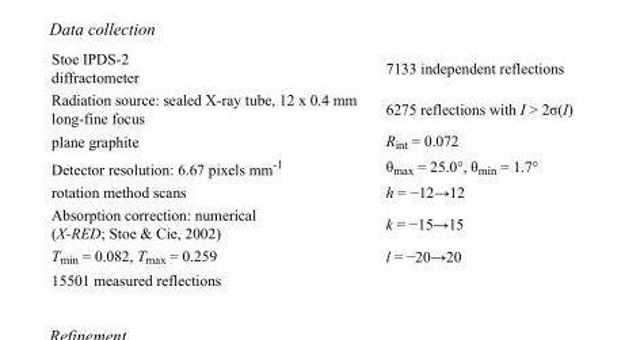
<table><tbody><tr><td>Stoe IPDS-2 diffractometer</td><td>7133 independent reflections</td></tr><tr><td>Radiation source: sealed X-ray tube, 12 x 0.4 mm long-fine focus</td><td>6275 reflections with I &gt; 2σ(I)</td></tr><tr><td>plane graphite</td><td>R<sub>int</sub> = 0.072</td></tr><tr><td>Detector resolution: 6.67 pixels mm<sup>-1</sup></td><td>θ<sub>max</sub> = 25.0°, θ<sub>min</sub> = 1.7°</td></tr><tr><td>rotation method scans</td><td>h = −12→12</td></tr><tr><td>Absorption correction: numerical (X-RED; Stoe &amp; Cie, 2002)</td><td>k = −15→15</td></tr><tr><td>T<sub>min</sub> = 0.082, T<sub>max</sub> = 0.259</td><td>l = −20→20</td></tr><tr><td>15501 measured reflections</td><td></td></tr></tbody></table>